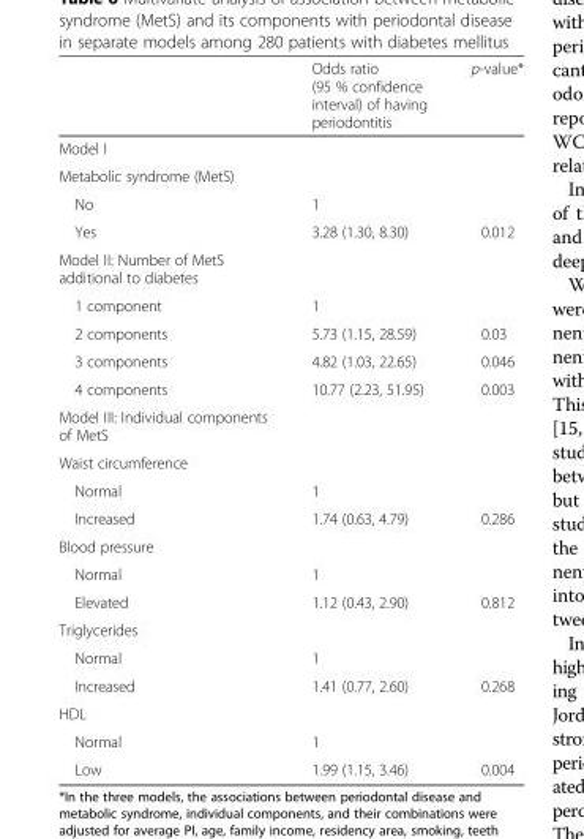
<table><thead><tr><td></td><td>Odds ratio (95 % confidence interval) of having periodontitis</td><td>p-value*</td></tr></thead><tbody><tr><td colspan="3">Model I</td></tr><tr><td colspan="3">Metabolic syndrome (MetS)</td></tr><tr><td>No</td><td>1</td><td></td></tr><tr><td>Yes</td><td>3.28 (1.30, 8.30)</td><td>0.012</td></tr><tr><td colspan="3">Model II: Number of MetS additional to diabetes</td></tr><tr><td>1 component</td><td>1</td><td></td></tr><tr><td>2 components</td><td>5.73 (1.15, 28.59)</td><td>0.03</td></tr><tr><td>3 components</td><td>4.82 (1.03, 22.65)</td><td>0.046</td></tr><tr><td>4 components</td><td>10.77 (2.23, 51.95)</td><td>0.003</td></tr><tr><td colspan="3">Model III: Individual components of MetS</td></tr><tr><td colspan="3">Waist circumference</td></tr><tr><td>Normal</td><td>1</td><td></td></tr><tr><td>Increased</td><td>1.74 (0.63, 4.79)</td><td>0.286</td></tr><tr><td colspan="3">Blood pressure</td></tr><tr><td>Normal</td><td>1</td><td></td></tr><tr><td>Elevated</td><td>1.12 (0.43, 2.90)</td><td>0.812</td></tr><tr><td colspan="3">Triglycerides</td></tr><tr><td>Normal</td><td>1</td><td></td></tr><tr><td>Increased</td><td>1.41 (0.77, 2.60)</td><td>0.268</td></tr><tr><td colspan="3">HDL</td></tr><tr><td>Normal</td><td>1</td><td></td></tr><tr><td>Low</td><td>1.99 (1.15, 3.46)</td><td>0.004</td></tr></tbody></table>